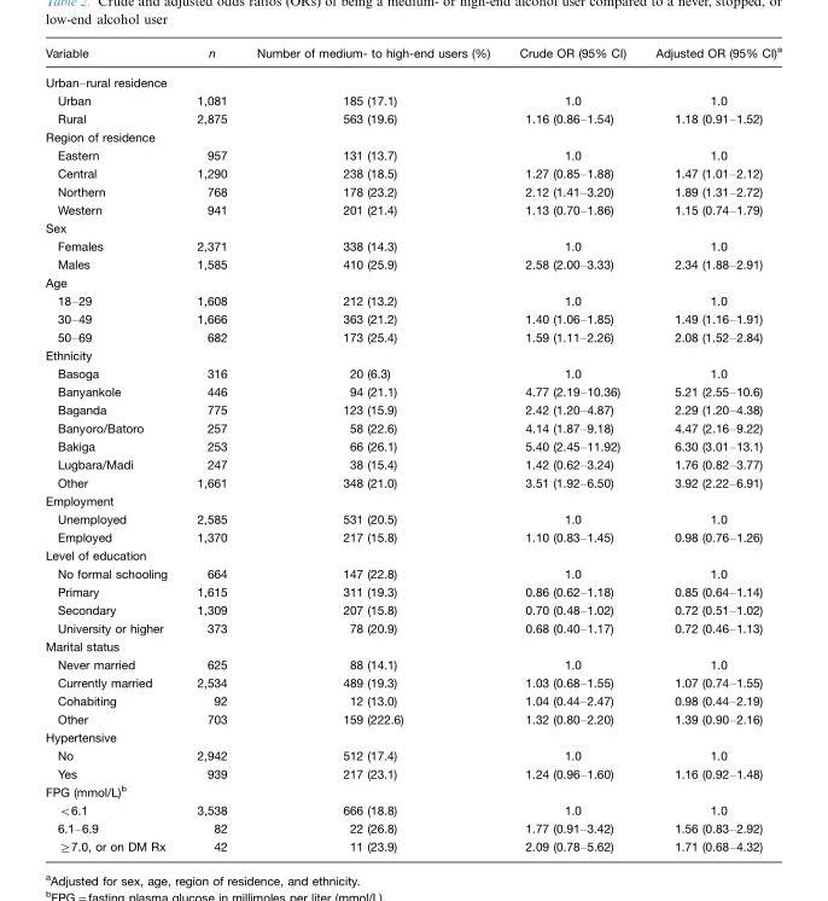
<table><thead><tr><td>Variable</td><td>n</td><td>Number of medium- to high-end users (%)</td><td>Crude OR (95% CI)</td><td>Adjusted OR (95% CI)<sup>a</sup></td></tr></thead><tbody><tr><td colspan="5">Urban–rural residence</td></tr><tr><td>Urban</td><td>1,081</td><td>185 (17.1)</td><td>1.0</td><td>1.0</td></tr><tr><td>Rural</td><td>2,875</td><td>563 (19.6)</td><td>1.16 (0.86–1.54)</td><td>1.18 (0.91–1.52)</td></tr><tr><td colspan="5">Region of residence</td></tr><tr><td>Eastern</td><td>957</td><td>131 (13.7)</td><td>1.0</td><td>1.0</td></tr><tr><td>Central</td><td>1,290</td><td>238 (18.5)</td><td>1.27 (0.85–1.88)</td><td>1.47 (1.01–2.12)</td></tr><tr><td>Northern</td><td>768</td><td>178 (23.2)</td><td>2.12 (1.41–3.20)</td><td>1.89 (1.31–2.72)</td></tr><tr><td>Western</td><td>941</td><td>201 (21.4)</td><td>1.13 (0.70–1.86)</td><td>1.15 (0.74–1.79)</td></tr><tr><td colspan="5">Sex</td></tr><tr><td>Females</td><td>2,371</td><td>338 (14.3)</td><td>1.0</td><td>1.0</td></tr><tr><td>Males</td><td>1,585</td><td>410 (25.9)</td><td>2.58 (2.00–3.33)</td><td>2.34 (1.88–2.91)</td></tr><tr><td colspan="5">Age</td></tr><tr><td>18–29</td><td>1,608</td><td>212 (13.2)</td><td>1.0</td><td>1.0</td></tr><tr><td>30–49</td><td>1,666</td><td>363 (21.2)</td><td>1.40 (1.06–1.85)</td><td>1.49 (1.16–1.91)</td></tr><tr><td>50–69</td><td>682</td><td>173 (25.4)</td><td>1.59 (1.11–2.26)</td><td>2.08 (1.52–2.84)</td></tr><tr><td colspan="5">Ethnicity</td></tr><tr><td>Basoga</td><td>316</td><td>20 (6.3)</td><td>1.0</td><td>1.0</td></tr><tr><td>Banyankole</td><td>446</td><td>94 (21.1)</td><td>4.77 (2.19–10.36)</td><td>5.21 (2.55–10.6)</td></tr><tr><td>Baganda</td><td>775</td><td>123 (15.9)</td><td>2.42 (1.20–4.87)</td><td>2.29 (1.20–4.38)</td></tr><tr><td>Banyoro/Batoro</td><td>257</td><td>58 (22.6)</td><td>4.14 (1.87–9.18)</td><td>4.47 (2.16–9.22)</td></tr><tr><td>Bakiga</td><td>253</td><td>66 (26.1)</td><td>5.40 (2.45–11.92)</td><td>6.30 (3.01–13.1)</td></tr><tr><td>Lugbara/Madi</td><td>247</td><td>38 (15.4)</td><td>1.42 (0.62–3.24)</td><td>1.76 (0.82–3.77)</td></tr><tr><td>Other</td><td>1,661</td><td>348 (21.0)</td><td>3.51 (1.92–6.50)</td><td>3.92 (2.22–6.91)</td></tr><tr><td colspan="5">Employment</td></tr><tr><td>Unemployed</td><td>2,585</td><td>531 (20.5)</td><td>1.0</td><td>1.0</td></tr><tr><td>Employed</td><td>1,370</td><td>217 (15.8)</td><td>1.10 (0.83–1.45)</td><td>0.98 (0.76–1.26)</td></tr><tr><td colspan="5">Level of education</td></tr><tr><td>No formal schooling</td><td>664</td><td>147 (22.8)</td><td>1.0</td><td>1.0</td></tr><tr><td>Primary</td><td>1,615</td><td>311 (19.3)</td><td>0.86 (0.62–1.18)</td><td>0.85 (0.64–1.14)</td></tr><tr><td>Secondary</td><td>1,309</td><td>207 (15.8)</td><td>0.70 (0.48–1.02)</td><td>0.72 (0.51–1.02)</td></tr><tr><td>University or higher</td><td>373</td><td>78 (20.9)</td><td>0.68 (0.40–1.17)</td><td>0.72 (0.46–1.13)</td></tr><tr><td colspan="5">Marital status</td></tr><tr><td>Never married</td><td>625</td><td>88 (14.1)</td><td>1.0</td><td>1.0</td></tr><tr><td>Currently married</td><td>2,534</td><td>489 (19.3)</td><td>1.03 (0.68–1.55)</td><td>1.07 (0.74–1.55)</td></tr><tr><td>Cohabiting</td><td>92</td><td>12 (13.0)</td><td>1.04 (0.44–2.47)</td><td>0.98 (0.44–2.19)</td></tr><tr><td>Other</td><td>703</td><td>159 (222.6)</td><td>1.32 (0.80–2.20)</td><td>1.39 (0.90–2.16)</td></tr><tr><td colspan="5">Hypertensive</td></tr><tr><td>No</td><td>2,942</td><td>512 (17.4)</td><td>1.0</td><td>1.0</td></tr><tr><td>Yes</td><td>939</td><td>217 (23.1)</td><td>1.24 (0.96–1.60)</td><td>1.16 (0.92–1.48)</td></tr><tr><td colspan="5">FPG (mmol/L)<sup>b</sup></td></tr><tr><td>&lt;6.1</td><td>3,538</td><td>666 (18.8)</td><td>1.0</td><td>1.0</td></tr><tr><td>6.1–6.9</td><td>82</td><td>22 (26.8)</td><td>1.77 (0.91–3.42)</td><td>1.56 (0.83–2.92)</td></tr><tr><td>≥7.0, or on DM Rx</td><td>42</td><td>11 (23.9)</td><td>2.09 (0.78–5.62)</td><td>1.71 (0.68–4.32)</td></tr></tbody></table>